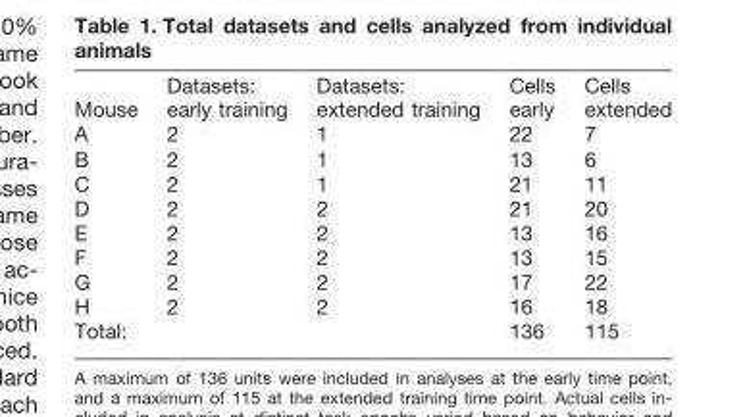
<table><thead><tr><td>Mouse</td><td>Datasets: early training</td><td>Datasets: extended training</td><td>Cells early</td><td>Cells extended</td></tr></thead><tbody><tr><td>A</td><td>2</td><td>1</td><td>22</td><td>7</td></tr><tr><td>B</td><td>2</td><td>1</td><td>13</td><td>6</td></tr><tr><td>C</td><td>2</td><td>1</td><td>21</td><td>11</td></tr><tr><td>D</td><td>2</td><td>2</td><td>21</td><td>20</td></tr><tr><td>E</td><td>2</td><td>2</td><td>13</td><td>16</td></tr><tr><td>F</td><td>2</td><td>2</td><td>13</td><td>15</td></tr><tr><td>G</td><td>2</td><td>2</td><td>17</td><td>22</td></tr><tr><td>H</td><td>2</td><td>2</td><td>16</td><td>18</td></tr><tr><td>Total:</td><td></td><td></td><td>136</td><td>115</td></tr></tbody></table>